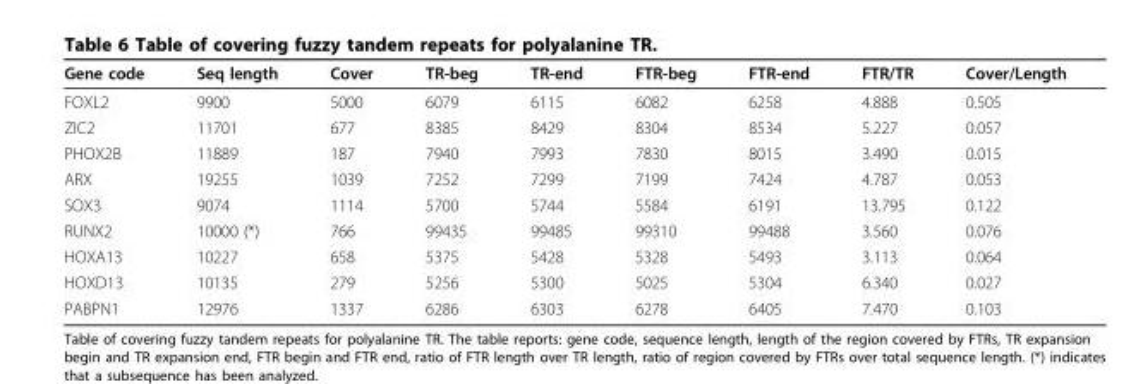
<table><thead><tr><td>Gene code</td><td>Seq length</td><td>Cover</td><td>TR-beg</td><td>TR-end</td><td>FTR-beg</td><td>FTR-end</td><td>FTR/TR</td><td>Cover/Length</td></tr></thead><tbody><tr><td>FOXL2</td><td>9900</td><td>5000</td><td>6079</td><td>6115</td><td>6082</td><td>6258</td><td>4.888</td><td>0.505</td></tr><tr><td>ZIC2</td><td>11701</td><td>677</td><td>8385</td><td>8429</td><td>8304</td><td>8534</td><td>5.227</td><td>0.057</td></tr><tr><td>PHOX2B</td><td>11889</td><td>187</td><td>7940</td><td>7993</td><td>7830</td><td>8015</td><td>3.490</td><td>0.015</td></tr><tr><td>ARX</td><td>19255</td><td>1039</td><td>7252</td><td>7299</td><td>7199</td><td>7424</td><td>4.787</td><td>0.053</td></tr><tr><td>SOX3</td><td>9074</td><td>1114</td><td>5700</td><td>5744</td><td>5584</td><td>6191</td><td>13.795</td><td>0.122</td></tr><tr><td>RUNX2</td><td>10000 (*)</td><td>766</td><td>99435</td><td>99485</td><td>99310</td><td>99488</td><td>3.560</td><td>0.076</td></tr><tr><td>HOXA13</td><td>10227</td><td>658</td><td>5375</td><td>5428</td><td>5328</td><td>5493</td><td>3.113</td><td>0.064</td></tr><tr><td>HOXD13</td><td>10135</td><td>279</td><td>5256</td><td>5300</td><td>5025</td><td>5304</td><td>6.340</td><td>0.027</td></tr><tr><td>PABPN1</td><td>12976</td><td>1337</td><td>6286</td><td>6303</td><td>6278</td><td>6405</td><td>7.470</td><td>0.103</td></tr></tbody></table>